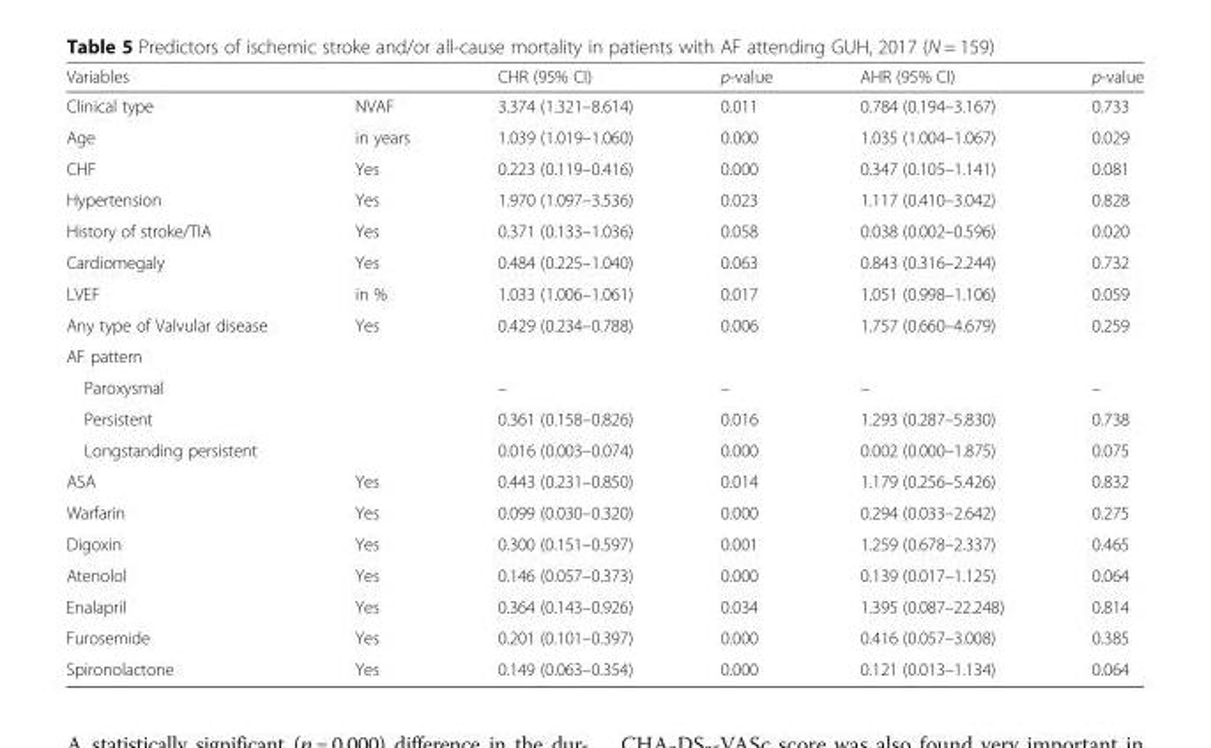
<table><thead><tr><td>Variables</td><td></td><td>CHR (95% CI)</td><td>p-value</td><td>AHR (95% CI)</td><td>p-value</td></tr></thead><tbody><tr><td>Clinical type</td><td>NVAF</td><td>3.374 (1.321–8.614)</td><td>0.011</td><td>0.784 (0.194–3.167)</td><td>0.733</td></tr><tr><td>Age</td><td>in years</td><td>1.039 (1.019–1.060)</td><td>0.000</td><td>1.035 (1.004–1.067)</td><td>0.029</td></tr><tr><td>CHF</td><td>Yes</td><td>0.223 (0.119–0.416)</td><td>0.000</td><td>0.347 (0.105–1.141)</td><td>0.081</td></tr><tr><td>Hypertension</td><td>Yes</td><td>1.970 (1.097–3.536)</td><td>0.023</td><td>1.117 (0.410–3.042)</td><td>0.828</td></tr><tr><td>History of stroke/TIA</td><td>Yes</td><td>0.371 (0.133–1.036)</td><td>0.058</td><td>0.038 (0.002–0.596)</td><td>0.020</td></tr><tr><td>Cardiomegaly</td><td>Yes</td><td>0.484 (0.225–1.040)</td><td>0.063</td><td>0.843 (0.316–2.244)</td><td>0.732</td></tr><tr><td>LVEF</td><td>in %</td><td>1.033 (1.006–1.061)</td><td>0.017</td><td>1.051 (0.998–1.106)</td><td>0.059</td></tr><tr><td>Any type of Valvular disease</td><td>Yes</td><td>0.429 (0.234–0.788)</td><td>0.006</td><td>1.757 (0.660–4.679)</td><td>0.259</td></tr><tr><td colspan="6">AF pattern</td></tr><tr><td>Paroxysmal</td><td></td><td>–</td><td>–</td><td>–</td><td>–</td></tr><tr><td>Persistent</td><td></td><td>0.361 (0.158–0.826)</td><td>0.016</td><td>1.293 (0.287–5.830)</td><td>0.738</td></tr><tr><td>Longstanding persistent</td><td></td><td>0.016 (0.003–0.074)</td><td>0.000</td><td>0.002 (0.000–1.875)</td><td>0.075</td></tr><tr><td>ASA</td><td>Yes</td><td>0.443 (0.231–0.850)</td><td>0.014</td><td>1.179 (0.256–5.426)</td><td>0.832</td></tr><tr><td>Warfarin</td><td>Yes</td><td>0.099 (0.030–0.320)</td><td>0.000</td><td>0.294 (0.033–2.642)</td><td>0.275</td></tr><tr><td>Digoxin</td><td>Yes</td><td>0.300 (0.151–0.597)</td><td>0.001</td><td>1.259 (0.678–2.337)</td><td>0.465</td></tr><tr><td>Atenolol</td><td>Yes</td><td>0.146 (0.057–0.373)</td><td>0.000</td><td>0.139 (0.017–1.125)</td><td>0.064</td></tr><tr><td>Enalapril</td><td>Yes</td><td>0.364 (0.143–0.926)</td><td>0.034</td><td>1.395 (0.087–22.248)</td><td>0.814</td></tr><tr><td>Furosemide</td><td>Yes</td><td>0.201 (0.101–0.397)</td><td>0.000</td><td>0.416 (0.057–3.008)</td><td>0.385</td></tr><tr><td>Spironolactone</td><td>Yes</td><td>0.149 (0.063–0.354)</td><td>0.000</td><td>0.121 (0.013–1.134)</td><td>0.064</td></tr></tbody></table>